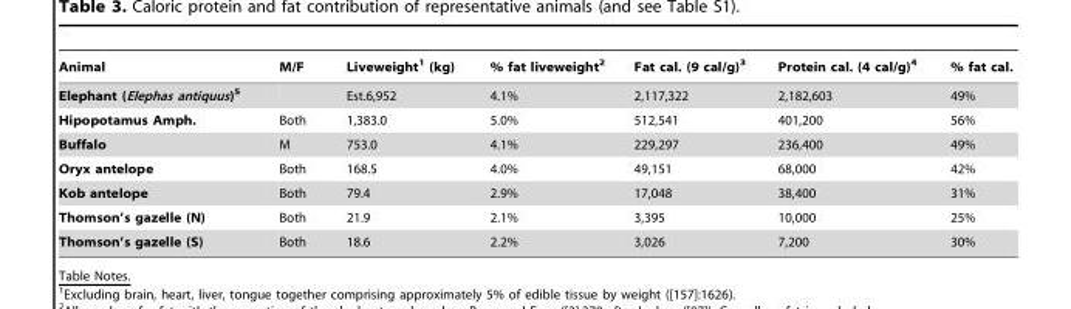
<table><thead><tr><td>Animal</td><td>M/F</td><td>Liveweight<sup>1</sup> (kg)</td><td>% fat liveweight<sup>2</sup></td><td>Fat cal. (9 cal/g)<sup>3</sup></td><td>Protein cal. (4 cal/g)<sup>4</sup></td><td>% fat cal.</td></tr></thead><tbody><tr><td>Elephant (Elephas antiquus)5</td><td></td><td>Est.6,952</td><td>4.1%</td><td>2,117,322</td><td>2,182,603</td><td>49%</td></tr><tr><td>Hipopotamus Amph.</td><td>Both</td><td>1,383.0</td><td>5.0%</td><td>512,541</td><td>401,200</td><td>56%</td></tr><tr><td>Buffalo</td><td>M</td><td>753.0</td><td>4.1%</td><td>229,297</td><td>236,400</td><td>49%</td></tr><tr><td>Oryx antelope</td><td>Both</td><td>168.5</td><td>4.0%</td><td>49,151</td><td>68,000</td><td>42%</td></tr><tr><td>Kob antelope</td><td>Both</td><td>79.4</td><td>2.9%</td><td>17,048</td><td>38,400</td><td>31%</td></tr><tr><td>Thomson’s gazelle (N)</td><td>Both</td><td>21.9</td><td>2.1%</td><td>3,395</td><td>10,000</td><td>25%</td></tr><tr><td>Thomson’s gazelle (S)</td><td>Both</td><td>18.6</td><td>2.2%</td><td>3,026</td><td>7,200</td><td>30%</td></tr></tbody></table>